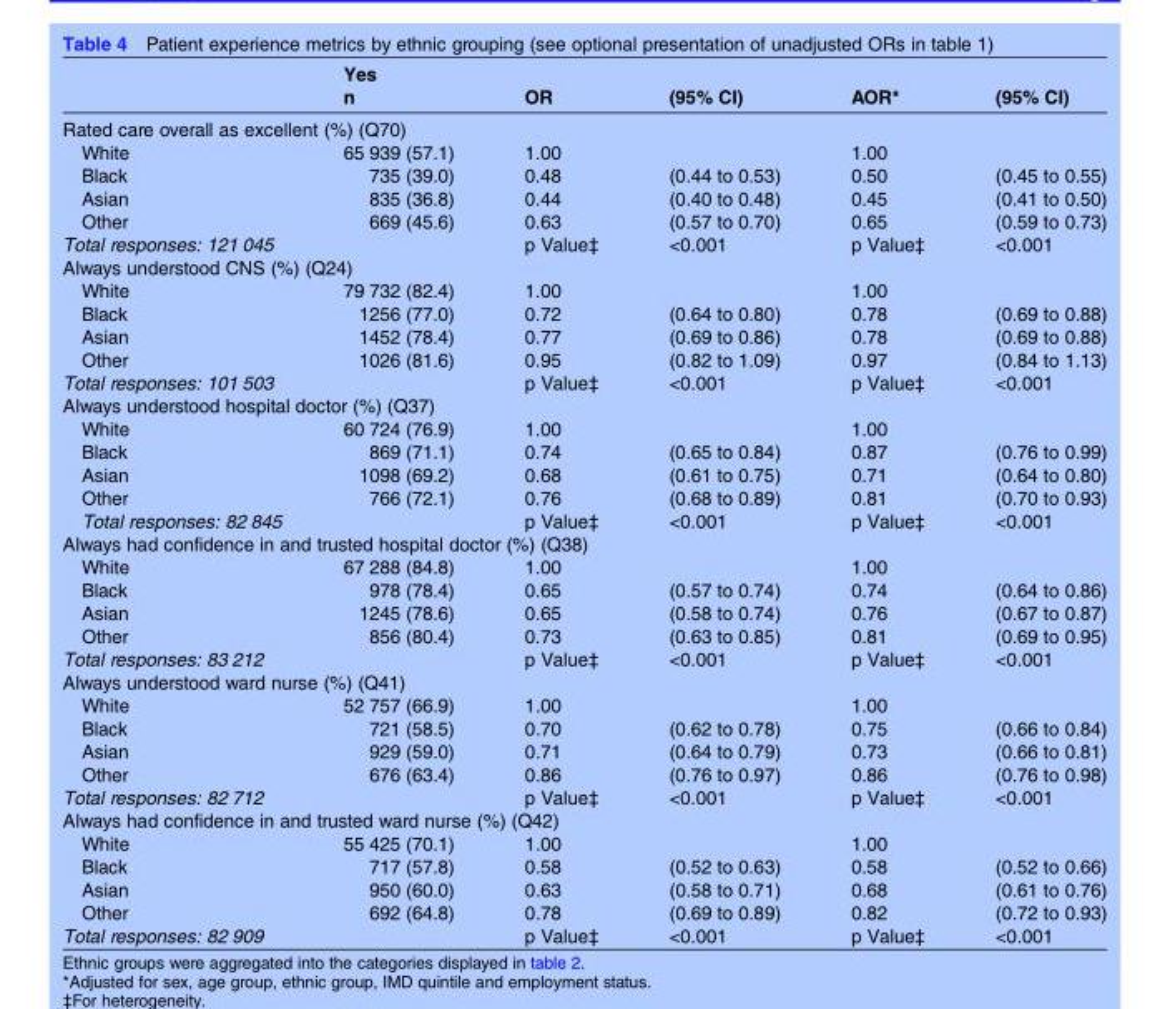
<table><thead><tr><td rowspan="2"></td><td rowspan="2">Yes n</td><td rowspan="2">OR</td><td rowspan="2">(95% CI)</td><td rowspan="2">AOR*</td><td rowspan="2">(95% CI)</td></tr><tr></tr></thead><tbody><tr><td colspan="6">Rated care overall as excellent (%) (Q70)</td></tr><tr><td>White</td><td>65 939 (57.1)</td><td>1.00</td><td></td><td>1.00</td><td></td></tr><tr><td>Black</td><td>735 (39.0)</td><td>0.48</td><td>(0.44 to 0.53)</td><td>0.50</td><td>(0.45 to 0.55)</td></tr><tr><td>Asian</td><td>835 (36.8)</td><td>0.44</td><td>(0.40 to 0.48)</td><td>0.45</td><td>(0.41 to 0.50)</td></tr><tr><td>Other</td><td>669 (45.6)</td><td>0.63</td><td>(0.57 to 0.70)</td><td>0.65</td><td>(0.59 to 0.73)</td></tr><tr><td>Total responses: 121 045</td><td></td><td>p Value‡</td><td>&lt;0.001</td><td>p Value‡</td><td>&lt;0.001</td></tr><tr><td colspan="6">Always understood CNS (%) (Q24)</td></tr><tr><td>White</td><td>79 732 (82.4)</td><td>1.00</td><td></td><td>1.00</td><td></td></tr><tr><td>Black</td><td>1256 (77.0)</td><td>0.72</td><td>(0.64 to 0.80)</td><td>0.78</td><td>(0.69 to 0.88)</td></tr><tr><td>Asian</td><td>1452 (78.4)</td><td>0.77</td><td>(0.69 to 0.86)</td><td>0.78</td><td>(0.69 to 0.88)</td></tr><tr><td>Other</td><td>1026 (81.6)</td><td>0.95</td><td>(0.82 to 1.09)</td><td>0.97</td><td>(0.84 to 1.13)</td></tr><tr><td>Total responses: 101 503</td><td></td><td>p Value‡</td><td>&lt;0.001</td><td>p Value‡</td><td>&lt;0.001</td></tr><tr><td colspan="6">Always understood hospital doctor (%) (Q37)</td></tr><tr><td>White</td><td>60 724 (76.9)</td><td>1.00</td><td></td><td>1.00</td><td></td></tr><tr><td>Black</td><td>869 (71.1)</td><td>0.74</td><td>(0.65 to 0.84)</td><td>0.87</td><td>(0.76 to 0.99)</td></tr><tr><td>Asian</td><td>1098 (69.2)</td><td>0.68</td><td>(0.61 to 0.75)</td><td>0.71</td><td>(0.64 to 0.80)</td></tr><tr><td>Other</td><td>766 (72.1)</td><td>0.76</td><td>(0.68 to 0.89)</td><td>0.81</td><td>(0.70 to 0.93)</td></tr><tr><td colspan="2">Total responses: 82 845</td><td>p Value‡</td><td>&lt;0.001</td><td>p Value‡</td><td>&lt;0.001</td></tr><tr><td colspan="6">Always had confidence in and trusted hospital doctor (%) (Q38)</td></tr><tr><td>White</td><td>67 288 (84.8)</td><td>1.00</td><td></td><td>1.00</td><td></td></tr><tr><td>Black</td><td>978 (78.4)</td><td>0.65</td><td>(0.57 to 0.74)</td><td>0.74</td><td>(0.64 to 0.86)</td></tr><tr><td>Asian</td><td>1245 (78.6)</td><td>0.65</td><td>(0.58 to 0.74)</td><td>0.76</td><td>(0.67 to 0.87)</td></tr><tr><td>Other</td><td>856 (80.4)</td><td>0.73</td><td>(0.63 to 0.85)</td><td>0.81</td><td>(0.69 to 0.95)</td></tr><tr><td>Total responses: 83 212</td><td></td><td>p Value‡</td><td>&lt;0.001</td><td>p Value‡</td><td>&lt;0.001</td></tr><tr><td colspan="6">Always understood ward nurse (%) (Q41)</td></tr><tr><td>White</td><td>52 757 (66.9)</td><td>1.00</td><td></td><td>1.00</td><td></td></tr><tr><td>Black</td><td>721 (58.5)</td><td>0.70</td><td>(0.62 to 0.78)</td><td>0.75</td><td>(0.66 to 0.84)</td></tr><tr><td>Asian</td><td>929 (59.0)</td><td>0.71</td><td>(0.64 to 0.79)</td><td>0.73</td><td>(0.66 to 0.81)</td></tr><tr><td>Other</td><td>676 (63.4)</td><td>0.86</td><td>(0.76 to 0.97)</td><td>0.86</td><td>(0.76 to 0.98)</td></tr><tr><td>Total responses: 82 712</td><td></td><td>p Value‡</td><td>&lt;0.001</td><td>p Value‡</td><td>&lt;0.001</td></tr><tr><td colspan="6">Always had confidence in and trusted ward nurse (%) (Q42)</td></tr><tr><td>White</td><td>55 425 (70.1)</td><td>1.00</td><td></td><td>1.00</td><td></td></tr><tr><td>Black</td><td>717 (57.8)</td><td>0.58</td><td>(0.52 to 0.63)</td><td>0.58</td><td>(0.52 to 0.66)</td></tr><tr><td>Asian</td><td>950 (60.0)</td><td>0.63</td><td>(0.58 to 0.71)</td><td>0.68</td><td>(0.61 to 0.76)</td></tr><tr><td>Other</td><td>692 (64.8)</td><td>0.78</td><td>(0.69 to 0.89)</td><td>0.82</td><td>(0.72 to 0.93)</td></tr><tr><td>Total responses: 82 909</td><td></td><td>p Value‡</td><td>&lt;0.001</td><td>p Value‡</td><td>&lt;0.001</td></tr></tbody></table>